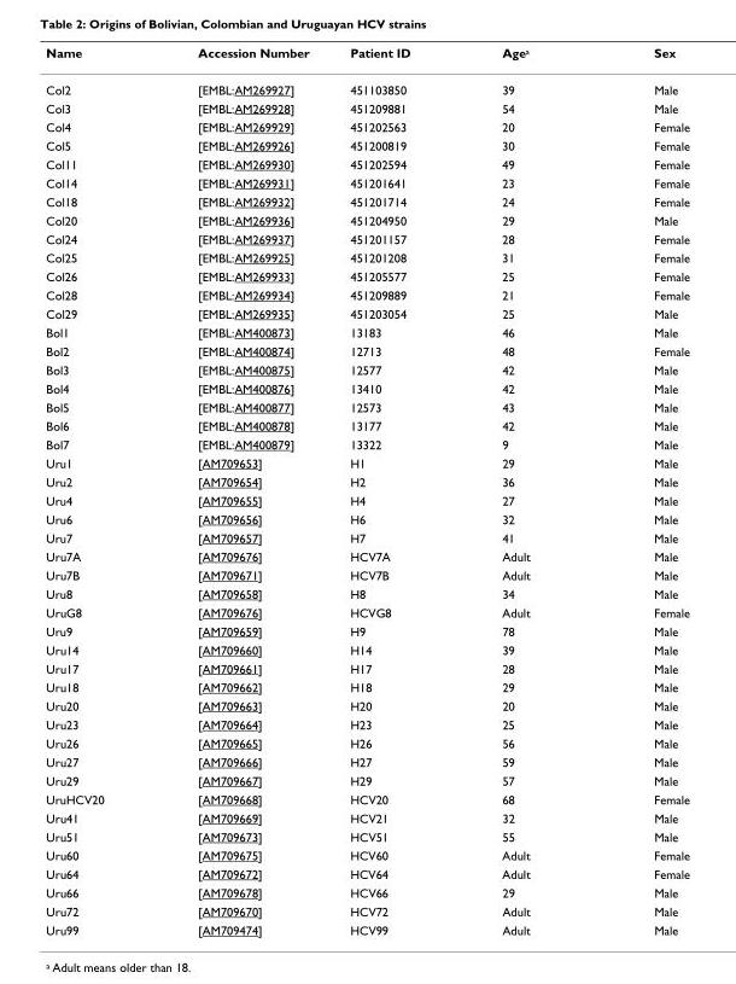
<table><thead><tr><td>Name</td><td>Accession Number</td><td>Patient ID</td><td>Age<sup>a</sup></td><td>Sex</td></tr></thead><tbody><tr><td>Col2</td><td>[EMBL:AM269927]</td><td>451103850</td><td>39</td><td>Male</td></tr><tr><td>Col3</td><td>[EMBL:AM269928]</td><td>451209881</td><td>54</td><td>Male</td></tr><tr><td>Col4</td><td>[EMBL:AM269929]</td><td>451202563</td><td>20</td><td>Female</td></tr><tr><td>Col5</td><td>[EMBL:AM269926]</td><td>451200819</td><td>30</td><td>Female</td></tr><tr><td>Col11</td><td>[EMBL:AM269930]</td><td>451202594</td><td>49</td><td>Female</td></tr><tr><td>Col14</td><td>[EMBL:AM269931]</td><td>451201641</td><td>23</td><td>Female</td></tr><tr><td>Col18</td><td>[EMBL:AM269932]</td><td>451201714</td><td>24</td><td>Female</td></tr><tr><td>Col20</td><td>[EMBL:AM269936]</td><td>451204950</td><td>29</td><td>Male</td></tr><tr><td>Col24</td><td>[EMBL:AM269937]</td><td>451201157</td><td>28</td><td>Female</td></tr><tr><td>Col25</td><td>[EMBL:AM269925]</td><td>451201208</td><td>31</td><td>Female</td></tr><tr><td>Col26</td><td>[EMBL:AM269933]</td><td>451205577</td><td>25</td><td>Female</td></tr><tr><td>Col28</td><td>[EMBL:AM269934]</td><td>451209889</td><td>21</td><td>Female</td></tr><tr><td>Col29</td><td>[EMBL:AM269935]</td><td>451203054</td><td>25</td><td>Male</td></tr><tr><td>Bol1</td><td>[EMBL:AM400873]</td><td>13183</td><td>46</td><td>Male</td></tr><tr><td>Bol2</td><td>[EMBL:AM400874]</td><td>12713</td><td>48</td><td>Female</td></tr><tr><td>Bol3</td><td>[EMBL:AM400875]</td><td>12577</td><td>42</td><td>Male</td></tr><tr><td>Bol4</td><td>[EMBL:AM400876]</td><td>13410</td><td>42</td><td>Male</td></tr><tr><td>Bol5</td><td>[EMBL:AM400877]</td><td>12573</td><td>43</td><td>Male</td></tr><tr><td>Bol6</td><td>[EMBL:AM400878]</td><td>13177</td><td>42</td><td>Male</td></tr><tr><td>Bol7</td><td>[EMBL:AM400879]</td><td>13322</td><td>9</td><td>Male</td></tr><tr><td>Uru1</td><td>[AM709653]</td><td>H1</td><td>29</td><td>Male</td></tr><tr><td>Uru2</td><td>[AM709654]</td><td>H2</td><td>36</td><td>Male</td></tr><tr><td>Uru4</td><td>[AM709655]</td><td>H4</td><td>27</td><td>Male</td></tr><tr><td>Uru6</td><td>[AM709656]</td><td>H6</td><td>32</td><td>Male</td></tr><tr><td>Uru7</td><td>[AM709657]</td><td>H7</td><td>41</td><td>Male</td></tr><tr><td>Uru7A</td><td>[AM709676]</td><td>HCV7A</td><td>Adult</td><td>Male</td></tr><tr><td>Uru7B</td><td>[AM709671]</td><td>HCV7B</td><td>Adult</td><td>Male</td></tr><tr><td>Uru8</td><td>[AM709658]</td><td>H8</td><td>34</td><td>Male</td></tr><tr><td>UruG8</td><td>[AM709676]</td><td>HCVG8</td><td>Adult</td><td>Female</td></tr><tr><td>Uru9</td><td>[AM709659]</td><td>H9</td><td>78</td><td>Male</td></tr><tr><td>Uru14</td><td>[AM709660]</td><td>H14</td><td>39</td><td>Male</td></tr><tr><td>Uru17</td><td>[AM709661]</td><td>H17</td><td>28</td><td>Male</td></tr><tr><td>Uru18</td><td>[AM709662]</td><td>H18</td><td>29</td><td>Male</td></tr><tr><td>Uru20</td><td>[AM709663]</td><td>H20</td><td>20</td><td>Male</td></tr><tr><td>Uru23</td><td>[AM709664]</td><td>H23</td><td>25</td><td>Male</td></tr><tr><td>Uru26</td><td>[AM709665]</td><td>H26</td><td>56</td><td>Male</td></tr><tr><td>Uru27</td><td>[AM709666]</td><td>H27</td><td>59</td><td>Male</td></tr><tr><td>Uru29</td><td>[AM709667]</td><td>H29</td><td>57</td><td>Male</td></tr><tr><td>UruHCV20</td><td>[AM709668]</td><td>HCV20</td><td>68</td><td>Female</td></tr><tr><td>Uru41</td><td>[AM709669]</td><td>HCV21</td><td>32</td><td>Male</td></tr><tr><td>Uru51</td><td>[AM709673]</td><td>HCV51</td><td>55</td><td>Male</td></tr><tr><td>Uru60</td><td>[AM709675]</td><td>HCV60</td><td>Adult</td><td>Female</td></tr><tr><td>Uru64</td><td>[AM709672]</td><td>HCV64</td><td>Adult</td><td>Female</td></tr><tr><td>Uru66</td><td>[AM709678]</td><td>HCV66</td><td>29</td><td>Male</td></tr><tr><td>Uru72</td><td>[AM709670]</td><td>HCV72</td><td>Adult</td><td>Male</td></tr><tr><td>Uru99</td><td>[AM709474]</td><td>HCV99</td><td>Adult</td><td>Male</td></tr></tbody></table>